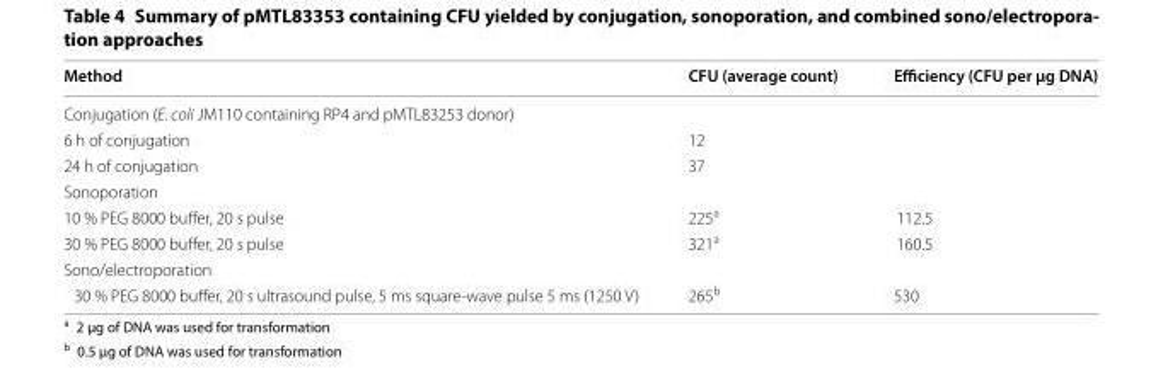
<table><thead><tr><td>Method</td><td>CFU (average count)</td><td>Efficiency (CFU per μg DNA)</td></tr></thead><tbody><tr><td colspan="2">Conjugation (E. coli JM110 containing RP4 and pMTL83253 donor)</td><td rowspan="4"></td></tr><tr><td>6 h of conjugation</td><td>12</td></tr><tr><td>24 h of conjugation</td><td>37</td></tr><tr><td colspan="2">Sonoporation</td></tr><tr><td>10 % PEG 8000 buffer, 20 s pulse</td><td>225<sup>a</sup></td><td>112.5</td></tr><tr><td>30 % PEG 8000 buffer, 20 s pulse</td><td>321<sup>a</sup></td><td>160.5</td></tr><tr><td colspan="3">Sono/electroporation</td></tr><tr><td>30 % PEG 8000 buffer, 20 s ultrasound pulse, 5 ms square-wave pulse 5 ms (1250 V)</td><td>265<sup>b</sup></td><td>530</td></tr></tbody></table>